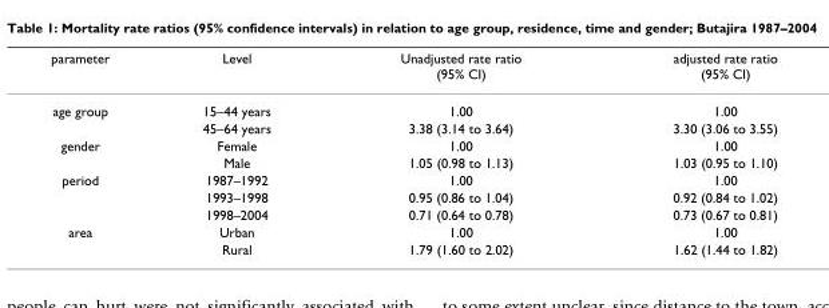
<table><thead><tr><td>parameter</td><td>Level</td><td>Unadjusted rate ratio (95% CI)</td><td>adjusted rate ratio (95% CI)</td></tr></thead><tbody><tr><td rowspan="2">age group</td><td>15–44 years</td><td>1.00</td><td>1.00</td></tr><tr><td>45–64 years</td><td>3.38 (3.14 to 3.64)</td><td>3.30 (3.06 to 3.55)</td></tr><tr><td rowspan="2">gender</td><td>Female</td><td>1.00</td><td>1.00</td></tr><tr><td>Male</td><td>1.05 (0.98 to 1.13)</td><td>1.03 (0.95 to 1.10)</td></tr><tr><td rowspan="3">period</td><td>1987–1992</td><td>1.00</td><td>1.00</td></tr><tr><td>1993–1998</td><td>0.95 (0.86 to 1.04)</td><td>0.92 (0.84 to 1.02)</td></tr><tr><td>1998–2004</td><td>0.71 (0.64 to 0.78)</td><td>0.73 (0.67 to 0.81)</td></tr><tr><td rowspan="2">area</td><td>Urban</td><td>1.00</td><td>1.00</td></tr><tr><td>Rural</td><td>1.79 (1.60 to 2.02)</td><td>1.62 (1.44 to 1.82)</td></tr></tbody></table>